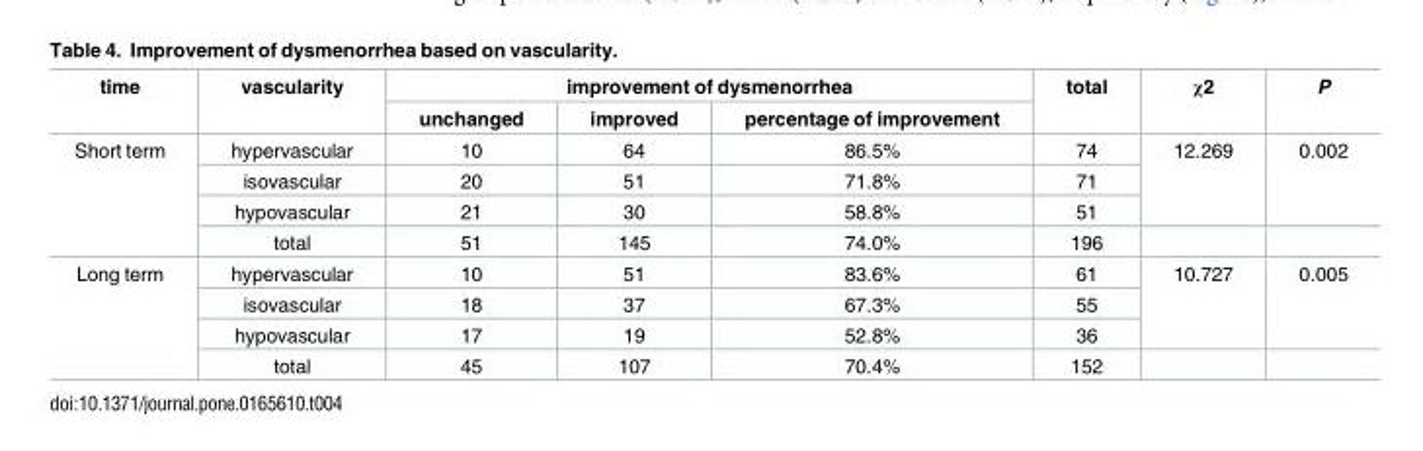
<table><thead><tr><td rowspan="2">time</td><td rowspan="2">vascularity</td><td colspan="3">improvement of dysmenorrhea</td><td rowspan="2">total</td><td rowspan="2">χ2</td><td rowspan="2">P</td></tr><tr><td>unchanged</td><td>improved</td><td>percentage of improvement</td></tr></thead><tbody><tr><td rowspan="4">Short term</td><td>hypervascular</td><td>10</td><td>64</td><td>86.5%</td><td>74</td><td rowspan="3">12.269</td><td rowspan="3">0.002</td></tr><tr><td>isovascular</td><td>20</td><td>51</td><td>71.8%</td><td>71</td></tr><tr><td>hypovascular</td><td>21</td><td>30</td><td>58.8%</td><td>51</td></tr><tr><td>total</td><td>51</td><td>145</td><td>74.0%</td><td>196</td><td></td><td></td></tr><tr><td rowspan="4">Long term</td><td>hypervascular</td><td>10</td><td>51</td><td>83.6%</td><td>61</td><td rowspan="3">10.727</td><td rowspan="3">0.005</td></tr><tr><td>isovascular</td><td>18</td><td>37</td><td>67.3%</td><td>55</td></tr><tr><td>hypovascular</td><td>17</td><td>19</td><td>52.8%</td><td>36</td></tr><tr><td>total</td><td>45</td><td>107</td><td>70.4%</td><td>152</td><td></td><td></td></tr></tbody></table>